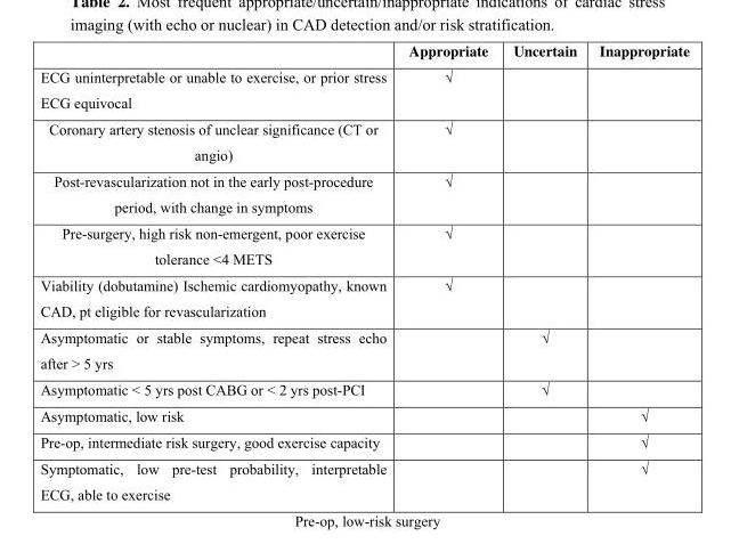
<table><thead><tr><td></td><td>Appropriate</td><td>Uncertain</td><td>Inappropriate</td></tr></thead><tbody><tr><td>ECG uninterpretable or unable to exercise, or prior stress ECG equivocal</td><td>√</td><td></td><td></td></tr><tr><td>Coronary artery stenosis of unclear significance (CT or angio)</td><td>√</td><td></td><td></td></tr><tr><td>Post-revascularization not in the early post-procedure period, with change in symptoms</td><td>√</td><td></td><td></td></tr><tr><td>Pre-surgery, high risk non-emergent, poor exercise tolerance &lt;4 METS</td><td>√</td><td></td><td></td></tr><tr><td>Viability (dobutamine) Ischemic cardiomyopathy, known CAD, pt eligible for revascularization</td><td>√</td><td></td><td></td></tr><tr><td>Asymptomatic or stable symptoms, repeat stress echo after &gt; 5 yrs</td><td></td><td>√</td><td></td></tr><tr><td>Asymptomatic &lt; 5 yrs post CABG or &lt; 2 yrs post-PCI</td><td></td><td>√</td><td></td></tr><tr><td>Asymptomatic, low risk</td><td></td><td></td><td>√</td></tr><tr><td>Pre-op, intermediate risk surgery, good exercise capacity</td><td></td><td></td><td>√</td></tr><tr><td>Symptomatic, low pre-test probability, interpretable ECG, able to exercise</td><td></td><td></td><td>√</td></tr></tbody></table>